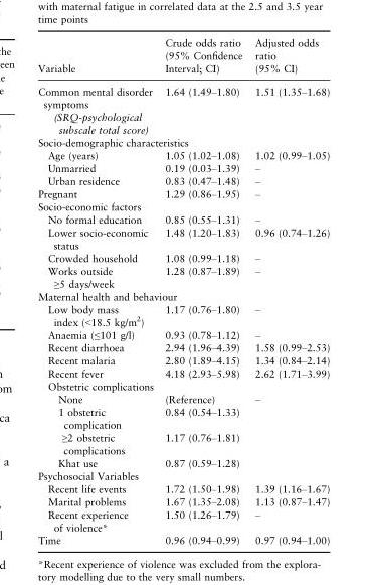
<table><thead><tr><td>Variable</td><td>Crude odds ratio (95% Confidence Interval; CI)</td><td>Adjusted odds ratio (95% CI)</td></tr></thead><tbody><tr><td>Common mental disorder symptoms (SRQ-psychological subscale total score)</td><td>1.64 (1.49–1.80)</td><td>1.51 (1.35–1.68)</td></tr><tr><td colspan="3">Socio-demographic characteristics</td></tr><tr><td>Age (years)</td><td>1.05 (1.02–1.08)</td><td>1.02 (0.99–1.05)</td></tr><tr><td>Unmarried</td><td>0.19 (0.03–1.39)</td><td>–</td></tr><tr><td>Urban residence</td><td>0.83 (0.47–1.48)</td><td>–</td></tr><tr><td>Pregnant</td><td>1.29 (0.86–1.95)</td><td>–</td></tr><tr><td colspan="3">Socio-economic factors</td></tr><tr><td>No formal education</td><td>0.85 (0.55–1.31)</td><td>–</td></tr><tr><td>Lower socio-economic status</td><td>1.48 (1.20–1.83)</td><td>0.96 (0.74–1.26)</td></tr><tr><td>Crowded household</td><td>1.08 (0.99–1.18)</td><td>–</td></tr><tr><td>Works outside ≥5 days/week</td><td>1.28 (0.87–1.89)</td><td>–</td></tr><tr><td colspan="3">Maternal health and behaviour</td></tr><tr><td>Low body mass index (&lt;18.5 kg/m<sup>2</sup>)</td><td>1.17 (0.76–1.80)</td><td>–</td></tr><tr><td>Anaemia (≤101 g/l)</td><td>0.93 (0.78–1.12)</td><td>–</td></tr><tr><td>Recent diarrhoea</td><td>2.94 (1.96–4.39)</td><td>1.58 (0.99–2.53)</td></tr><tr><td>Recent malaria</td><td>2.80 (1.89–4.15)</td><td>1.34 (0.84–2.14)</td></tr><tr><td>Recent fever</td><td>4.18 (2.93–5.98)</td><td>2.62 (1.71–3.99)</td></tr><tr><td colspan="3">Obstetric complications</td></tr><tr><td>None</td><td>(Reference)</td><td rowspan="4">–</td></tr><tr><td>1 obstetric complication</td><td>0.84 (0.54–1.33)</td></tr><tr><td>≥2 obstetric complications</td><td>1.17 (0.76–1.81)</td></tr><tr><td>Khat use</td><td>0.87 (0.59–1.28)</td></tr><tr><td colspan="3">Psychosocial Variables</td></tr><tr><td>Recent life events</td><td>1.72 (1.50–1.98)</td><td>1.39 (1.16–1.67)</td></tr><tr><td>Marital problems</td><td>1.67 (1.35–2.08)</td><td>1.13 (0.87–1.47)</td></tr><tr><td>Recent experience of violence*</td><td>1.50 (1.26–1.79)</td><td>–</td></tr><tr><td>Time</td><td>0.96 (0.94–0.99)</td><td>0.97 (0.94–1.00)</td></tr></tbody></table>